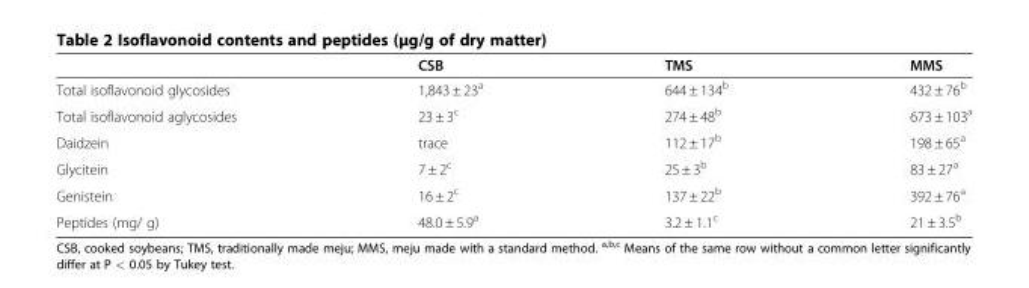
<table><thead><tr><td></td><td>CSB</td><td>TMS</td><td>MMS</td></tr></thead><tbody><tr><td>Total isoflavonoid glycosides</td><td>1,843 ± 23<sup>a</sup></td><td>644 ± 134<sup>b</sup></td><td>432 ± 76<sup>b</sup></td></tr><tr><td>Total isoflavonoid aglycosides</td><td>23 ± 3<sup>c</sup></td><td>274 ± 48<sup>b</sup></td><td>673 ± 103<sup>a</sup></td></tr><tr><td>Daidzein</td><td>trace</td><td>112 ± 17<sup>b</sup></td><td>198 ± 65<sup>a</sup></td></tr><tr><td>Glycitein</td><td>7 ± 2<sup>c</sup></td><td>25 ± 3<sup>b</sup></td><td>83 ± 27<sup>a</sup></td></tr><tr><td>Genistein</td><td>16 ± 2<sup>c</sup></td><td>137 ± 22<sup>b</sup></td><td>392 ± 76<sup>a</sup></td></tr><tr><td>Peptides (mg/ g)</td><td>48.0 ± 5.9<sup>a</sup></td><td>3.2 ± 1.1<sup>c</sup></td><td>21 ± 3.5<sup>b</sup></td></tr></tbody></table>